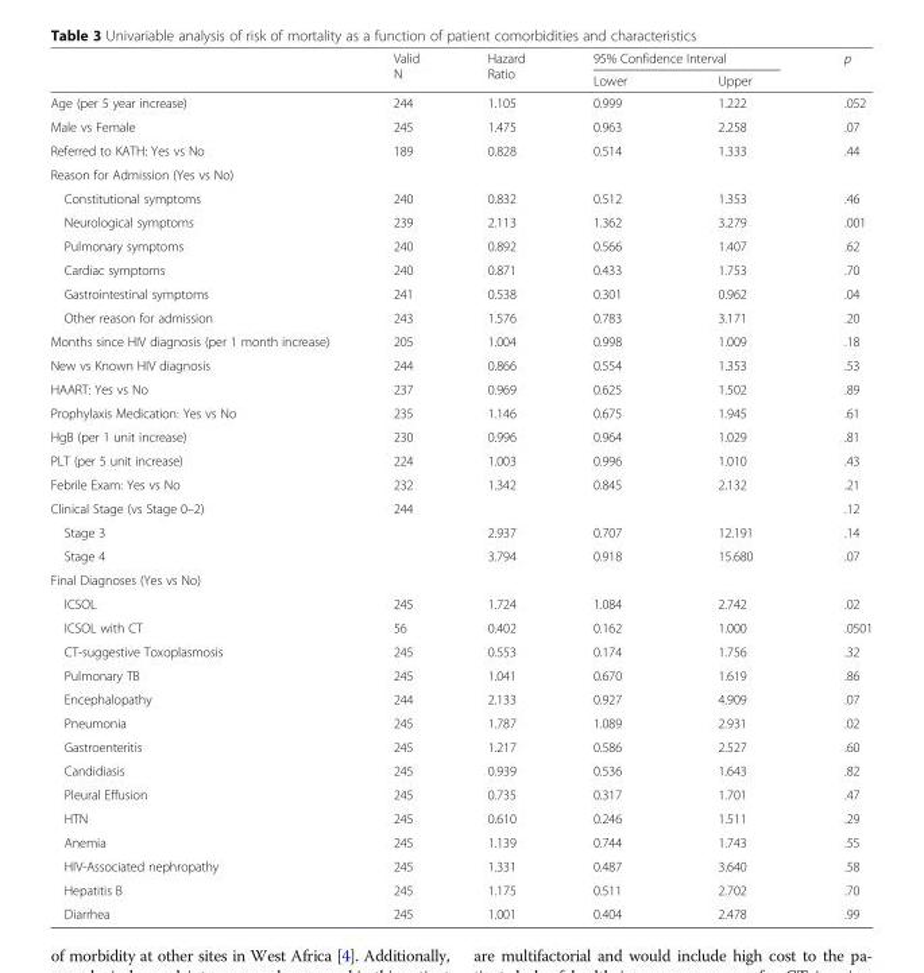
<table><thead><tr><td rowspan="2"></td><td rowspan="2">Valid N</td><td rowspan="2">Hazard Ratio</td><td colspan="2">95% Confidence Interval</td><td rowspan="2">p</td></tr><tr><td>Lower</td><td>Upper</td></tr></thead><tbody><tr><td>Age (per 5 year increase)</td><td>244</td><td>1.105</td><td>0.999</td><td>1.222</td><td>.052</td></tr><tr><td>Male vs Female</td><td>245</td><td>1.475</td><td>0.963</td><td>2.258</td><td>.07</td></tr><tr><td>Referred to KATH: Yes vs No</td><td>189</td><td>0.828</td><td>0.514</td><td>1.333</td><td>.44</td></tr><tr><td colspan="6">Reason for Admission (Yes vs No)</td></tr><tr><td>Constitutional symptoms</td><td>240</td><td>0.832</td><td>0.512</td><td>1.353</td><td>.46</td></tr><tr><td>Neurological symptoms</td><td>239</td><td>2.113</td><td>1.362</td><td>3.279</td><td>.001</td></tr><tr><td>Pulmonary symptoms</td><td>240</td><td>0.892</td><td>0.566</td><td>1.407</td><td>.62</td></tr><tr><td>Cardiac symptoms</td><td>240</td><td>0.871</td><td>0.433</td><td>1.753</td><td>.70</td></tr><tr><td>Gastrointestinal symptoms</td><td>241</td><td>0.538</td><td>0.301</td><td>0.962</td><td>.04</td></tr><tr><td>Other reason for admission</td><td>243</td><td>1.576</td><td>0.783</td><td>3.171</td><td>.20</td></tr><tr><td>Months since HIV diagnosis (per 1 month increase)</td><td>205</td><td>1.004</td><td>0.998</td><td>1.009</td><td>.18</td></tr><tr><td>New vs Known HIV diagnosis</td><td>244</td><td>0.866</td><td>0.554</td><td>1.353</td><td>.53</td></tr><tr><td>HAART: Yes vs No</td><td>237</td><td>0.969</td><td>0.625</td><td>1.502</td><td>.89</td></tr><tr><td>Prophylaxis Medication: Yes vs No</td><td>235</td><td>1.146</td><td>0.675</td><td>1.945</td><td>.61</td></tr><tr><td>HgB (per 1 unit increase)</td><td>230</td><td>0.996</td><td>0.964</td><td>1.029</td><td>.81</td></tr><tr><td>PLT (per 5 unit increase)</td><td>224</td><td>1.003</td><td>0.996</td><td>1.010</td><td>.43</td></tr><tr><td>Febrile Exam: Yes vs No</td><td>232</td><td>1.342</td><td>0.845</td><td>2.132</td><td>.21</td></tr><tr><td>Clinical Stage (vs Stage 0–2)</td><td>244</td><td></td><td></td><td></td><td>.12</td></tr><tr><td>Stage 3</td><td></td><td>2.937</td><td>0.707</td><td>12.191</td><td>.14</td></tr><tr><td>Stage 4</td><td></td><td>3.794</td><td>0.918</td><td>15.680</td><td>.07</td></tr><tr><td colspan="6">Final Diagnoses (Yes vs No)</td></tr><tr><td>ICSOL</td><td>245</td><td>1.724</td><td>1.084</td><td>2.742</td><td>.02</td></tr><tr><td>ICSOL with CT</td><td>56</td><td>0.402</td><td>0.162</td><td>1.000</td><td>.0501</td></tr><tr><td>CT-suggestive Toxoplasmosis</td><td>245</td><td>0.553</td><td>0.174</td><td>1.756</td><td>.32</td></tr><tr><td>Pulmonary TB</td><td>245</td><td>1.041</td><td>0.670</td><td>1.619</td><td>.86</td></tr><tr><td>Encephalopathy</td><td>244</td><td>2.133</td><td>0.927</td><td>4.909</td><td>.07</td></tr><tr><td>Pneumonia</td><td>245</td><td>1.787</td><td>1.089</td><td>2.931</td><td>.02</td></tr><tr><td>Gastroenteritis</td><td>245</td><td>1.217</td><td>0.586</td><td>2.527</td><td>.60</td></tr><tr><td>Candidiasis</td><td>245</td><td>0.939</td><td>0.536</td><td>1.643</td><td>.82</td></tr><tr><td>Pleural Effusion</td><td>245</td><td>0.735</td><td>0.317</td><td>1.701</td><td>.47</td></tr><tr><td>HTN</td><td>245</td><td>0.610</td><td>0.246</td><td>1.511</td><td>.29</td></tr><tr><td>Anemia</td><td>245</td><td>1.139</td><td>0.744</td><td>1.743</td><td>.55</td></tr><tr><td>HIV-Associated nephropathy</td><td>245</td><td>1.331</td><td>0.487</td><td>3.640</td><td>.58</td></tr><tr><td>Hepatitis B</td><td>245</td><td>1.175</td><td>0.511</td><td>2.702</td><td>.70</td></tr><tr><td>Diarrhea</td><td>245</td><td>1.001</td><td>0.404</td><td>2.478</td><td>.99</td></tr></tbody></table>